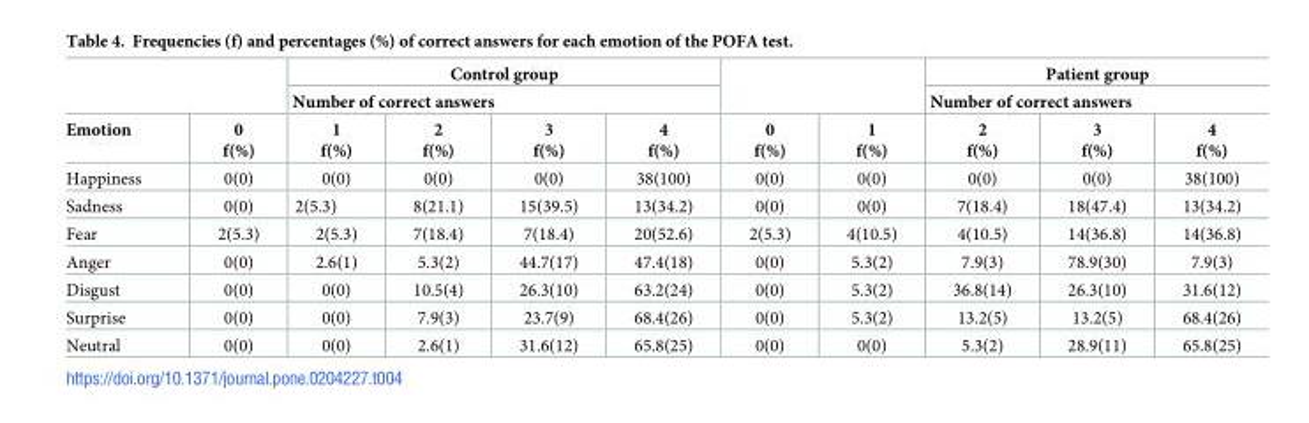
<table><thead><tr><td rowspan="3">Emotion</td><td rowspan="3">0 f(%)</td><td rowspan="2" colspan="4">Control group Number of correct answers</td><td rowspan="3">0 f(%)</td><td rowspan="3">1 f(%)</td><td rowspan="2" colspan="3">Patient group Number of correct answers</td></tr><tr></tr><tr><td>1 f(%)</td><td>2 f(%)</td><td>3 f(%)</td><td>4 f(%)</td><td>2 f(%)</td><td>3 f(%)</td><td>4 f(%)</td></tr></thead><tbody><tr><td>Happiness</td><td>0(0)</td><td>0(0)</td><td>0(0)</td><td>0(0)</td><td>38(100)</td><td>0(0)</td><td>0(0)</td><td>0(0)</td><td>0(0)</td><td>38(100)</td></tr><tr><td>Sadness</td><td>0(0)</td><td>2(5.3)</td><td>8(21.1)</td><td>15(39.5)</td><td>13(34.2)</td><td>0(0)</td><td>0(0)</td><td>7(18.4)</td><td>18(47.4)</td><td>13(34.2)</td></tr><tr><td>Fear</td><td>2(5.3)</td><td>2(5.3)</td><td>7(18.4)</td><td>7(18.4)</td><td>20(52.6)</td><td>2(5.3)</td><td>4(10.5)</td><td>4(10.5)</td><td>14(36.8)</td><td>14(36.8)</td></tr><tr><td>Anger</td><td>0(0)</td><td>2.6(1)</td><td>5.3(2)</td><td>44.7(17)</td><td>47.4(18)</td><td>0(0)</td><td>5.3(2)</td><td>7.9(3)</td><td>78.9(30)</td><td>7.9(3)</td></tr><tr><td>Disgust</td><td>0(0)</td><td>0(0)</td><td>10.5(4)</td><td>26.3(10)</td><td>63.2(24)</td><td>0(0)</td><td>5.3(2)</td><td>36.8(14)</td><td>26.3(10)</td><td>31.6(12)</td></tr><tr><td>Surprise</td><td>0(0)</td><td>0(0)</td><td>7.9(3)</td><td>23.7(9)</td><td>68.4(26)</td><td>0(0)</td><td>5.3(2)</td><td>13.2(5)</td><td>13.2(5)</td><td>68.4(26)</td></tr><tr><td>Neutral</td><td>0(0)</td><td>0(0)</td><td>2.6(1)</td><td>31.6(12)</td><td>65.8(25)</td><td>0(0)</td><td>0(0)</td><td>5.3(2)</td><td>28.9(11)</td><td>65.8(25)</td></tr></tbody></table>